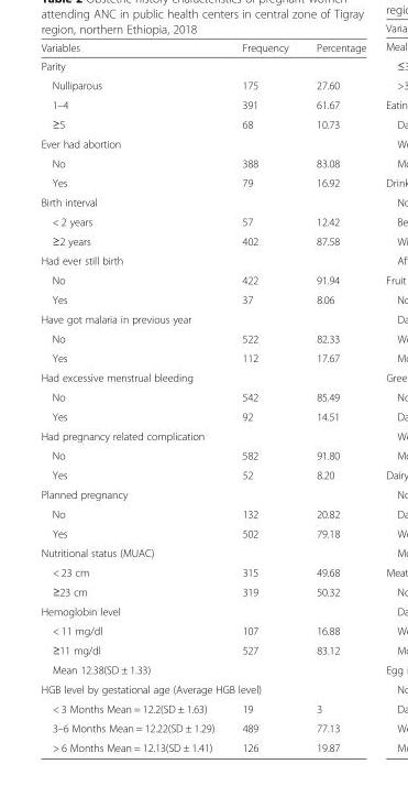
<table><thead><tr><td>Variables</td><td>Frequency</td><td>Percentage</td></tr></thead><tbody><tr><td colspan="3">Parity</td></tr><tr><td>Nulliparous</td><td>175</td><td>27.60</td></tr><tr><td>1–4</td><td>391</td><td>61.67</td></tr><tr><td>≥5</td><td>68</td><td>10.73</td></tr><tr><td colspan="3">Ever had abortion</td></tr><tr><td>No</td><td>388</td><td>83.08</td></tr><tr><td>Yes</td><td>79</td><td>16.92</td></tr><tr><td colspan="3">Birth interval</td></tr><tr><td>&lt; 2 years</td><td>57</td><td>12.42</td></tr><tr><td>≥2 years</td><td>402</td><td>87.58</td></tr><tr><td colspan="3">Had ever still birth</td></tr><tr><td>No</td><td>422</td><td>91.94</td></tr><tr><td>Yes</td><td>37</td><td>8.06</td></tr><tr><td colspan="3">Have got malaria in previous year</td></tr><tr><td>No</td><td>522</td><td>82.33</td></tr><tr><td>Yes</td><td>112</td><td>17.67</td></tr><tr><td colspan="3">Had excessive menstrual bleeding</td></tr><tr><td>No</td><td>542</td><td>85.49</td></tr><tr><td>Yes</td><td>92</td><td>14.51</td></tr><tr><td colspan="3">Had pregnancy related complication</td></tr><tr><td>No</td><td>582</td><td>91.80</td></tr><tr><td>Yes</td><td>52</td><td>8.20</td></tr><tr><td colspan="3">Planned pregnancy</td></tr><tr><td>No</td><td>132</td><td>20.82</td></tr><tr><td>Yes</td><td>502</td><td>79.18</td></tr><tr><td colspan="3">Nutritional status (MUAC)</td></tr><tr><td>&lt; 23 cm</td><td>315</td><td>49.68</td></tr><tr><td>≥23 cm</td><td>319</td><td>50.32</td></tr><tr><td colspan="3">Hemoglobin level</td></tr><tr><td>&lt; 11 mg/dl</td><td>107</td><td>16.88</td></tr><tr><td>≥11 mg/dl</td><td>527</td><td>83.12</td></tr><tr><td colspan="3">Mean 12.38(SD ± 1.33)</td></tr><tr><td colspan="3">HGB level by gestational age (Average HGB level)</td></tr><tr><td>&lt; 3 Months Mean = 12.2(SD ± 1.63)</td><td>19</td><td>3</td></tr><tr><td>3–6 Months Mean = 12.22(SD ± 1.29)</td><td>489</td><td>77.13</td></tr><tr><td>&gt; 6 Months Mean = 12.13(SD ± 1.41)</td><td>126</td><td>19.87</td></tr></tbody></table>